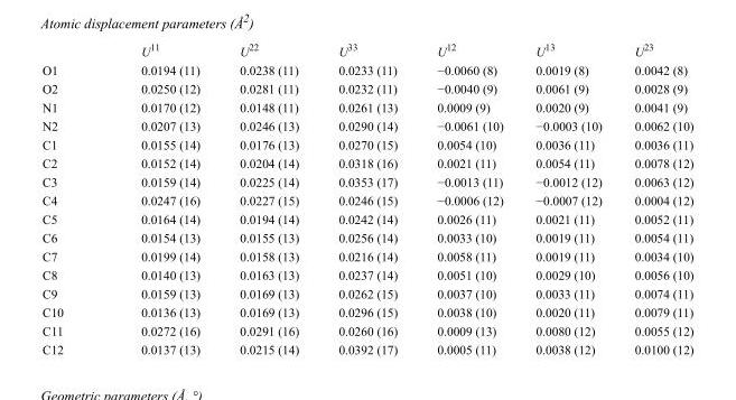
<table><thead><tr><td></td><td>U<sup>11</sup></td><td>U<sup>22</sup></td><td>U<sup>33</sup></td><td>U<sup>12</sup></td><td>U<sup>13</sup></td><td>U<sup>23</sup></td></tr></thead><tbody><tr><td>O1</td><td>0.0194 (11)</td><td>0.0238 (11)</td><td>0.0233 (11)</td><td>−0.0060 (8)</td><td>0.0019 (8)</td><td>0.0042 (8)</td></tr><tr><td>O2</td><td>0.0250 (12)</td><td>0.0281 (11)</td><td>0.0232 (11)</td><td>−0.0040 (9)</td><td>0.0061 (9)</td><td>0.0028 (9)</td></tr><tr><td>N1</td><td>0.0170 (12)</td><td>0.0148 (11)</td><td>0.0261 (13)</td><td>0.0009 (9)</td><td>0.0020 (9)</td><td>0.0041 (9)</td></tr><tr><td>N2</td><td>0.0207 (13)</td><td>0.0246 (13)</td><td>0.0290 (14)</td><td>−0.0061 (10)</td><td>−0.0003 (10)</td><td>0.0062 (10)</td></tr><tr><td>C1</td><td>0.0155 (14)</td><td>0.0176 (13)</td><td>0.0270 (15)</td><td>0.0054 (10)</td><td>0.0036 (11)</td><td>0.0036 (11)</td></tr><tr><td>C2</td><td>0.0152 (14)</td><td>0.0204 (14)</td><td>0.0318 (16)</td><td>0.0021 (11)</td><td>0.0054 (11)</td><td>0.0078 (12)</td></tr><tr><td>C3</td><td>0.0159 (14)</td><td>0.0225 (14)</td><td>0.0353 (17)</td><td>−0.0013 (11)</td><td>−0.0012 (12)</td><td>0.0063 (12)</td></tr><tr><td>C4</td><td>0.0247 (16)</td><td>0.0227 (15)</td><td>0.0246 (15)</td><td>−0.0006 (12)</td><td>−0.0007 (12)</td><td>0.0004 (12)</td></tr><tr><td>C5</td><td>0.0164 (14)</td><td>0.0194 (14)</td><td>0.0242 (14)</td><td>0.0026 (11)</td><td>0.0021 (11)</td><td>0.0052 (11)</td></tr><tr><td>C6</td><td>0.0154 (13)</td><td>0.0155 (13)</td><td>0.0256 (14)</td><td>0.0033 (10)</td><td>0.0019 (11)</td><td>0.0054 (11)</td></tr><tr><td>C7</td><td>0.0199 (14)</td><td>0.0158 (13)</td><td>0.0216 (14)</td><td>0.0058 (11)</td><td>0.0019 (11)</td><td>0.0034 (10)</td></tr><tr><td>C8</td><td>0.0140 (13)</td><td>0.0163 (13)</td><td>0.0237 (14)</td><td>0.0051 (10)</td><td>0.0029 (10)</td><td>0.0056 (10)</td></tr><tr><td>C9</td><td>0.0159 (13)</td><td>0.0169 (13)</td><td>0.0262 (15)</td><td>0.0037 (10)</td><td>0.0033 (11)</td><td>0.0074 (11)</td></tr><tr><td>C10</td><td>0.0136 (13)</td><td>0.0169 (13)</td><td>0.0296 (15)</td><td>0.0038 (10)</td><td>0.0020 (11)</td><td>0.0079 (11)</td></tr><tr><td>C11</td><td>0.0272 (16)</td><td>0.0291 (16)</td><td>0.0260 (16)</td><td>0.0009 (13)</td><td>0.0080 (12)</td><td>0.0055 (12)</td></tr><tr><td>C12</td><td>0.0137 (13)</td><td>0.0215 (14)</td><td>0.0392 (17)</td><td>0.0005 (11)</td><td>0.0038 (12)</td><td>0.0100 (12)</td></tr></tbody></table>